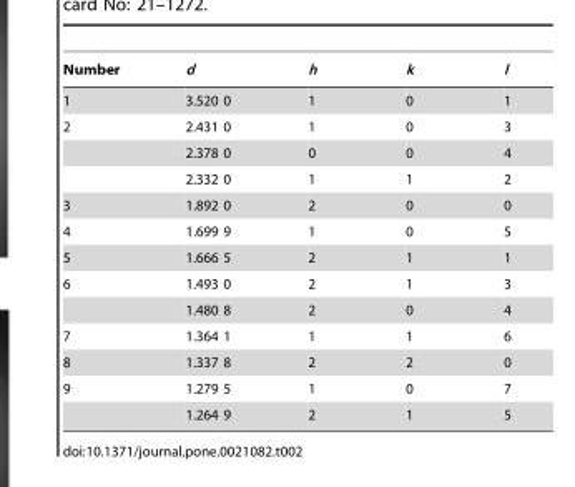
<table><thead><tr><td>Number</td><td>d</td><td>h</td><td>k</td><td>l</td></tr></thead><tbody><tr><td>1</td><td>3.520 0</td><td>1</td><td>0</td><td>1</td></tr><tr><td rowspan="3">2</td><td>2.431 0</td><td>1</td><td>0</td><td>3</td></tr><tr><td>2.378 0</td><td>0</td><td>0</td><td>4</td></tr><tr><td>2.332 0</td><td>1</td><td>1</td><td>2</td></tr><tr><td>3</td><td>1.892 0</td><td>2</td><td>0</td><td>0</td></tr><tr><td>4</td><td>1.699 9</td><td>1</td><td>0</td><td>5</td></tr><tr><td>5</td><td>1.666 5</td><td>2</td><td>1</td><td>1</td></tr><tr><td rowspan="2">6</td><td>1.493 0</td><td>2</td><td>1</td><td>3</td></tr><tr><td>1.480 8</td><td>2</td><td>0</td><td>4</td></tr><tr><td>7</td><td>1.364 1</td><td>1</td><td>1</td><td>6</td></tr><tr><td>8</td><td>1.337 8</td><td>2</td><td>2</td><td>0</td></tr><tr><td rowspan="2">9</td><td>1.279 5</td><td>1</td><td>0</td><td>7</td></tr><tr><td>1.264 9</td><td>2</td><td>1</td><td>5</td></tr></tbody></table>